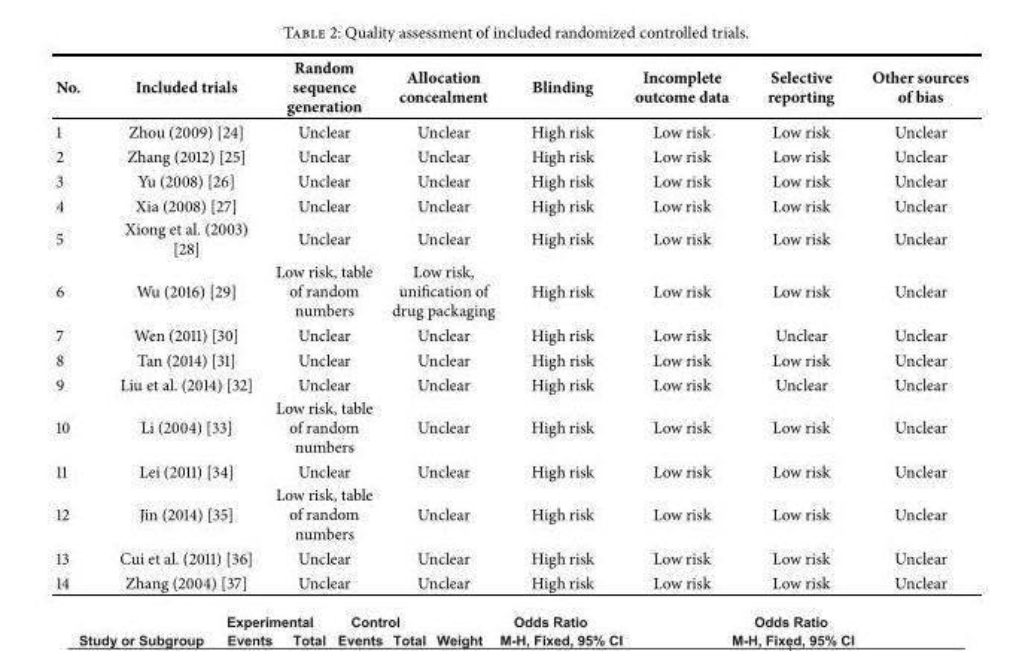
<table><thead><tr><td>No.</td><td>Included trials</td><td>Random sequence generation</td><td>Allocation concealment</td><td>Blinding</td><td>Incomplete outcome data</td><td>Selective reporting</td><td>Other sources of bias</td></tr></thead><tbody><tr><td>1</td><td>Zhou (2009) [24]</td><td>Unclear</td><td>Unclear</td><td>High risk</td><td>Low risk</td><td>Low risk</td><td>Unclear</td></tr><tr><td>2</td><td>Zhang (2012) [25]</td><td>Unclear</td><td>Unclear</td><td>High risk</td><td>Low risk</td><td>Low risk</td><td>Unclear</td></tr><tr><td>3</td><td>Yu (2008) [26]</td><td>Unclear</td><td>Unclear</td><td>High risk</td><td>Low risk</td><td>Low risk</td><td>Unclear</td></tr><tr><td>4</td><td>Xia (2008) [27]</td><td>Unclear</td><td>Unclear</td><td>High risk</td><td>Low risk</td><td>Low risk</td><td>Unclear</td></tr><tr><td>5</td><td>Xiong et al. (2003) [28]</td><td>Unclear</td><td>Unclear</td><td>High risk</td><td>Low risk</td><td>Low risk</td><td>Unclear</td></tr><tr><td>6</td><td>Wu (2016) [29]</td><td>Low risk, table of random numbers</td><td>Low risk, unification of drug packaging</td><td>High risk</td><td>Low risk</td><td>Low risk</td><td>Unclear</td></tr><tr><td>7</td><td>Wen (2011) [30]</td><td>Unclear</td><td>Unclear</td><td>High risk</td><td>Low risk</td><td>Unclear</td><td>Unclear</td></tr><tr><td>8</td><td>Tan (2014) [31]</td><td>Unclear</td><td>Unclear</td><td>High risk</td><td>Low risk</td><td>Low risk</td><td>Unclear</td></tr><tr><td>9</td><td>Liu et al. (2014) [32]</td><td>Unclear</td><td>Unclear</td><td>High risk</td><td>Low risk</td><td>Unclear</td><td>Unclear</td></tr><tr><td>10</td><td>Li (2004) [33]</td><td>Low risk, table of random numbers</td><td>Unclear</td><td>High risk</td><td>Low risk</td><td>Low risk</td><td>Unclear</td></tr><tr><td>11</td><td>Lei (2011) [34]</td><td>Unclear</td><td>Unclear</td><td>High risk</td><td>Low risk</td><td>Low risk</td><td>Unclear</td></tr><tr><td>12</td><td>Jin (2014) [35]</td><td>Low risk, table of random numbers</td><td>Unclear</td><td>High risk</td><td>Low risk</td><td>Low risk</td><td>Unclear</td></tr><tr><td>13</td><td>Cui et al. (2011) [36]</td><td>Unclear</td><td>Unclear</td><td>High risk</td><td>Low risk</td><td>Low risk</td><td>Unclear</td></tr><tr><td>14</td><td>Zhang (2004) [37]</td><td>Unclear</td><td>Unclear</td><td>High risk</td><td>Low risk</td><td>Low risk</td><td>Unclear</td></tr></tbody></table>